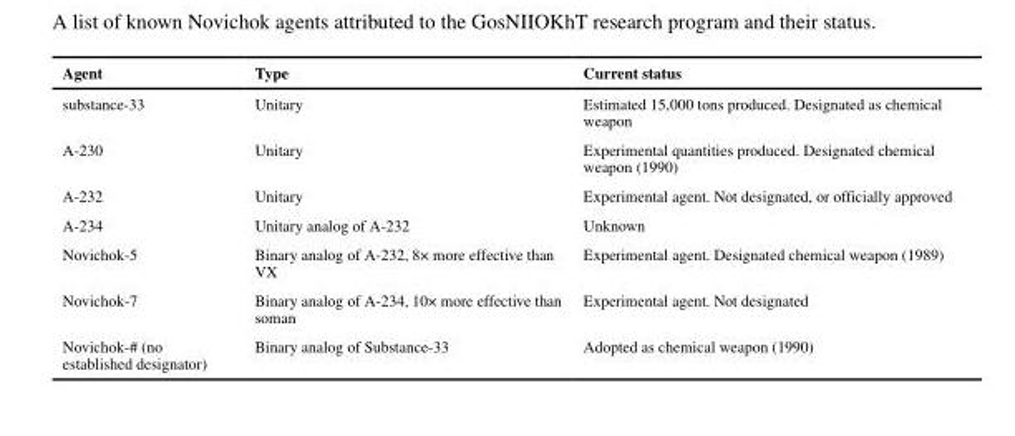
<table><thead><tr><td>Agent</td><td>Type</td><td>Current status</td></tr></thead><tbody><tr><td>substance-33</td><td>Unitary</td><td>Estimated 15,000 tons produced. Designated as chemical weapon</td></tr><tr><td>A-230</td><td>Unitary</td><td>Experimental quantities produced. Designated chemical weapon (1990)</td></tr><tr><td>A-232</td><td>Unitary</td><td>Experimental agent. Not designated, or officially approved</td></tr><tr><td>A-234</td><td>Unitary analog of A-232</td><td>Unknown</td></tr><tr><td>Novichok-5</td><td>Binary analog of A-232, 8× more effective than VX</td><td>Experimental agent. Designated chemical weapon (1989)</td></tr><tr><td>Novichok-7</td><td>Binary analog of A-234, 10× more effective than soman</td><td>Experimental agent. Not designated</td></tr><tr><td>Novichok-# (no established designator)</td><td>Binary analog of Substance-33</td><td>Adopted as chemical weapon (1990)</td></tr></tbody></table>